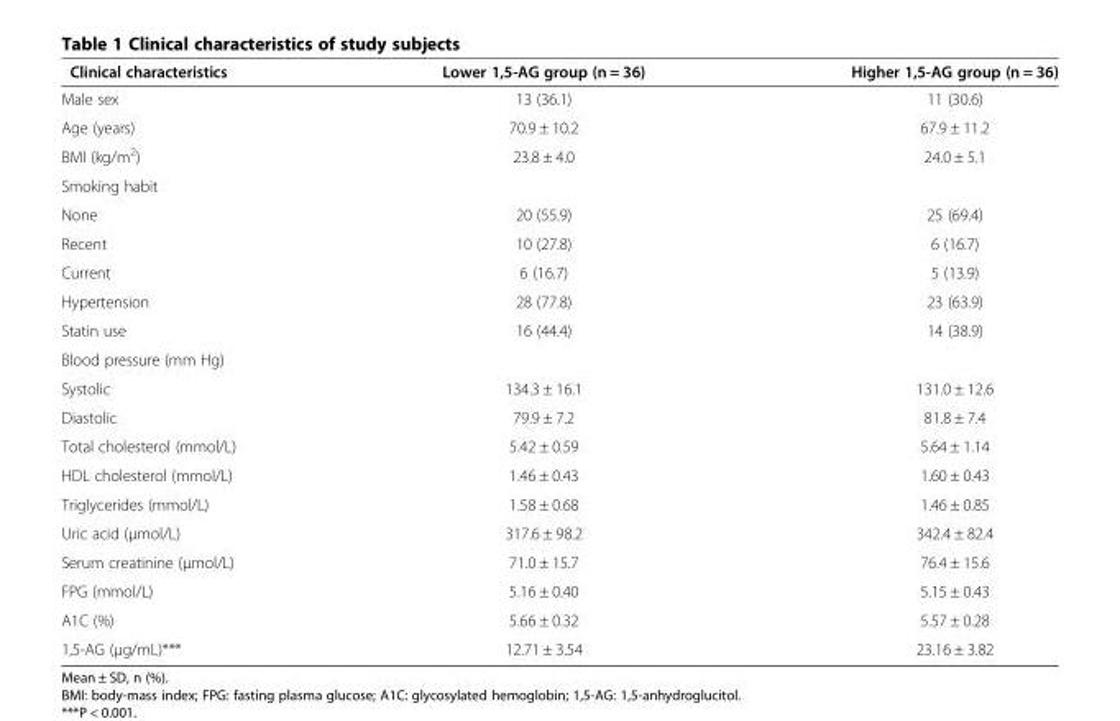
<table><thead><tr><td>Clinical characteristics</td><td>Lower 1,5-AG group (n = 36)</td><td>Higher 1,5-AG group (n = 36)</td></tr></thead><tbody><tr><td>Male sex</td><td>13 (36.1)</td><td>11 (30.6)</td></tr><tr><td>Age (years)</td><td>70.9 ± 10.2</td><td>67.9 ± 11.2</td></tr><tr><td>BMI (kg/m<sup>2</sup>)</td><td>23.8 ± 4.0</td><td>24.0 ± 5.1</td></tr><tr><td colspan="3">Smoking habit</td></tr><tr><td>None</td><td>20 (55.9)</td><td>25 (69.4)</td></tr><tr><td>Recent</td><td>10 (27.8)</td><td>6 (16.7)</td></tr><tr><td>Current</td><td>6 (16.7)</td><td>5 (13.9)</td></tr><tr><td>Hypertension</td><td>28 (77.8)</td><td>23 (63.9)</td></tr><tr><td>Statin use</td><td>16 (44.4)</td><td>14 (38.9)</td></tr><tr><td colspan="3">Blood pressure (mm Hg)</td></tr><tr><td>Systolic</td><td>134.3 ± 16.1</td><td>131.0 ± 12.6</td></tr><tr><td>Diastolic</td><td>79.9 ± 7.2</td><td>81.8 ± 7.4</td></tr><tr><td>Total cholesterol (mmol/L)</td><td>5.42 ± 0.59</td><td>5.64 ± 1.14</td></tr><tr><td>HDL cholesterol (mmol/L)</td><td>1.46 ± 0.43</td><td>1.60 ± 0.43</td></tr><tr><td>Triglycerides (mmol/L)</td><td>1.58 ± 0.68</td><td>1.46 ± 0.85</td></tr><tr><td>Uric acid (μmol/L)</td><td>317.6 ± 98.2</td><td>342.4 ± 82.4</td></tr><tr><td>Serum creatinine (μmol/L)</td><td>71.0 ± 15.7</td><td>76.4 ± 15.6</td></tr><tr><td>FPG (mmol/L)</td><td>5.16 ± 0.40</td><td>5.15 ± 0.43</td></tr><tr><td>A1C (%)</td><td>5.66 ± 0.32</td><td>5.57 ± 0.28</td></tr><tr><td>1,5-AG (μg/mL)***</td><td>12.71 ± 3.54</td><td>23.16 ± 3.82</td></tr></tbody></table>